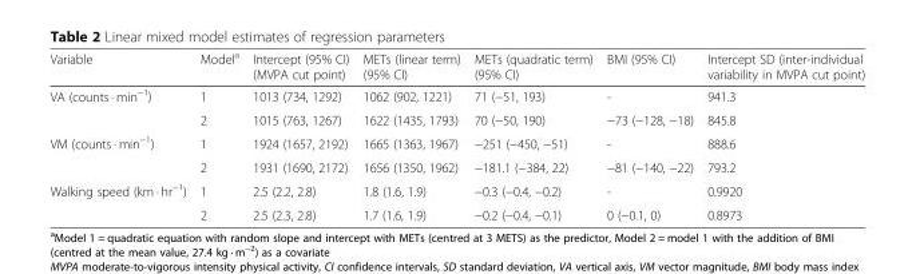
<table><thead><tr><td>Variable</td><td>Model<sup>a</sup></td><td>Intercept (95% CI) (MVPA cut point)</td><td>METs (linear term) (95% CI)</td><td>METs (quadratic term) (95% CI)</td><td>BMI (95% CI)</td><td>Intercept SD (inter-individual variability in MVPA cut point)</td></tr></thead><tbody><tr><td rowspan="2">VA (counts · min<sup>−1</sup>)</td><td>1</td><td>1013 (734, 1292)</td><td>1062 (902, 1221)</td><td>71 (−51, 193)</td><td>-</td><td>941.3</td></tr><tr><td>2</td><td>1015 (763, 1267)</td><td>1622 (1435, 1793)</td><td>70 (−50, 190)</td><td>−73 (−128, −18)</td><td>845.8</td></tr><tr><td rowspan="2">VM (counts · min<sup>−1</sup>)</td><td>1</td><td>1924 (1657, 2192)</td><td>1665 (1363, 1967)</td><td>−251 (−450, −51)</td><td>-</td><td>888.6</td></tr><tr><td>2</td><td>1931 (1690, 2172)</td><td>1656 (1350, 1962)</td><td>−181.1 (−384, 22)</td><td>−81 (−140, −22)</td><td>793.2</td></tr><tr><td rowspan="2">Walking speed (km · hr<sup>−1</sup>)</td><td>1</td><td>2.5 (2.2, 2.8)</td><td>1.8 (1.6, 1.9)</td><td>−0.3 (−0.4, −0.2)</td><td>-</td><td>0.9920</td></tr><tr><td>2</td><td>2.5 (2.3, 2.8)</td><td>1.7 (1.6, 1.9)</td><td>−0.2 (−0.4, −0.1)</td><td>0 (−0.1, 0)</td><td>0.8973</td></tr></tbody></table>